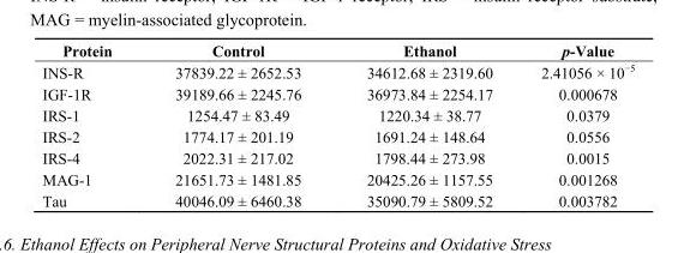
<table><thead><tr><td>Protein</td><td>Control</td><td>Ethanol</td><td>p-Value</td></tr></thead><tbody><tr><td>INS-R</td><td>37839.22 ± 2652.53</td><td>34612.68 ± 2319.60</td><td>2.41056 × 10<sup>−5</sup></td></tr><tr><td>IGF-1R</td><td>39189.66 ± 2245.76</td><td>36973.84 ± 2254.17</td><td>0.000678</td></tr><tr><td>IRS-1</td><td>1254.47 ± 83.49</td><td>1220.34 ± 38.77</td><td>0.0379</td></tr><tr><td>IRS-2</td><td>1774.17 ± 201.19</td><td>1691.24 ± 148.64</td><td>0.0556</td></tr><tr><td>IRS-4</td><td>2022.31 ± 217.02</td><td>1798.44 ± 273.98</td><td>0.0015</td></tr><tr><td>MAG-1</td><td>21651.73 ± 1481.85</td><td>20425.26 ± 1157.55</td><td>0.001268</td></tr><tr><td>Tau</td><td>40046.09 ± 6460.38</td><td>35090.79 ± 5809.52</td><td>0.003782</td></tr></tbody></table>